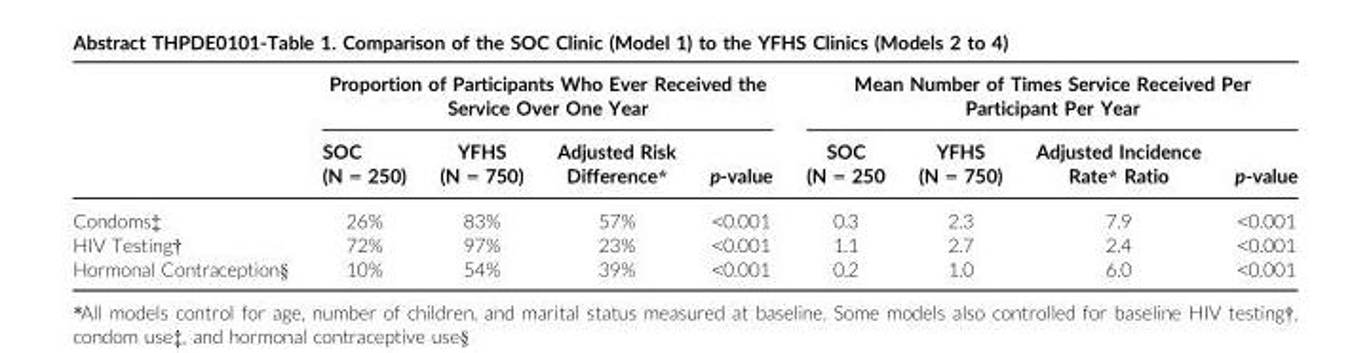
<table><thead><tr><td rowspan="2"></td><td colspan="4">Proportion of Participants Who Ever Received the Service Over One Year</td><td colspan="4">Mean Number of Times Service Received Per Participant Per Year</td></tr><tr><td>SOC (N = 250)</td><td>YFHS (N = 750)</td><td>Adjusted Risk Difference*</td><td>p-value</td><td>SOC (N = 250</td><td>YFHS (N = 750)</td><td>Adjusted Incidence Rate* Ratio</td><td>p-value</td></tr></thead><tbody><tr><td>Condoms‡</td><td>26%</td><td>83%</td><td>57%</td><td>&lt;0.001</td><td>0.3</td><td>2.3</td><td>7.9</td><td>&lt;0.001</td></tr><tr><td>HIV Testing†</td><td>72%</td><td>97%</td><td>23%</td><td>&lt;0.001</td><td>1.1</td><td>2.7</td><td>2.4</td><td>&lt;0.001</td></tr><tr><td>Hormonal Contraception§</td><td>10%</td><td>54%</td><td>39%</td><td>&lt;0.001</td><td>0.2</td><td>1.0</td><td>6.0</td><td>&lt;0.001</td></tr></tbody></table>